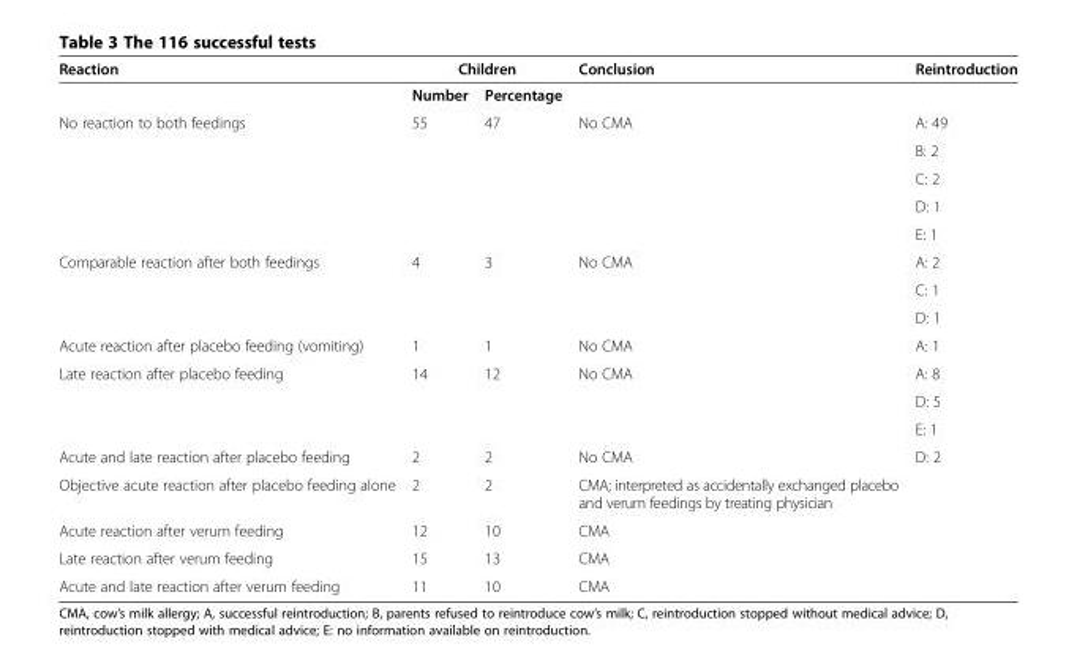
<table><thead><tr><td rowspan="2">Reaction</td><td colspan="2">Children</td><td rowspan="2">Conclusion</td><td rowspan="2">Reintroduction</td></tr><tr><td>Number</td><td>Percentage</td></tr></thead><tbody><tr><td rowspan="5">No reaction to both feedings</td><td rowspan="5">55</td><td rowspan="5">47</td><td rowspan="5">No CMA</td><td>A: 49</td></tr><tr><td>B: 2</td></tr><tr><td>C: 2</td></tr><tr><td>D: 1</td></tr><tr><td>E: 1</td></tr><tr><td rowspan="3">Comparable reaction after both feedings</td><td rowspan="3">4</td><td rowspan="3">3</td><td rowspan="3">No CMA</td><td>A: 2</td></tr><tr><td>C: 1</td></tr><tr><td>D: 1</td></tr><tr><td>Acute reaction after placebo feeding (vomiting)</td><td>1</td><td>1</td><td>No CMA</td><td>A: 1</td></tr><tr><td rowspan="3">Late reaction after placebo feeding</td><td rowspan="3">14</td><td rowspan="3">12</td><td rowspan="3">No CMA</td><td>A: 8</td></tr><tr><td>D: 5</td></tr><tr><td>E: 1</td></tr><tr><td>Acute and late reaction after placebo feeding</td><td>2</td><td>2</td><td>No CMA</td><td>D: 2</td></tr><tr><td>Objective acute reaction after placebo feeding alone</td><td>2</td><td>2</td><td>CMA; interpreted as accidentally exchanged placebo and verum feedings by treating physician</td><td></td></tr><tr><td>Acute reaction after verum feeding</td><td>12</td><td>10</td><td>CMA</td><td></td></tr><tr><td>Late reaction after verum feeding</td><td>15</td><td>13</td><td>CMA</td><td></td></tr><tr><td>Acute and late reaction after verum feeding</td><td>11</td><td>10</td><td>CMA</td><td></td></tr></tbody></table>